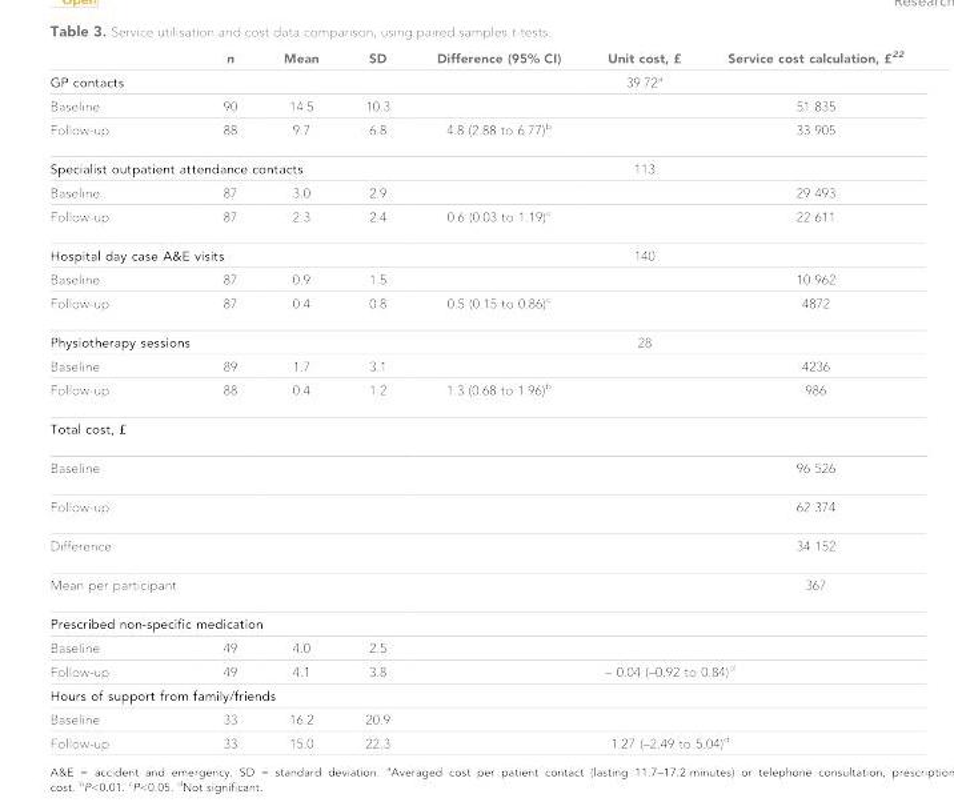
<table><thead><tr><td></td><td>n</td><td>Mean</td><td>SD</td><td>Difference (95% CI)</td><td>Unit cost, £</td><td>Service cost calculation, £22</td></tr></thead><tbody><tr><td colspan="5">GP contacts</td><td>39.72<sup>a</sup></td><td></td></tr><tr><td>Baseline</td><td>90</td><td>14.5</td><td>10.3</td><td></td><td></td><td>51 835</td></tr><tr><td>Follow-up</td><td>88</td><td>9.7</td><td>6.8</td><td>4.8 (2.88 to 6.77)<sup>b</sup></td><td></td><td>33 905</td></tr><tr><td colspan="5">Specialist outpatient attendance contacts</td><td>113</td><td></td></tr><tr><td>Baseline</td><td>87</td><td>3.0</td><td>2.9</td><td></td><td></td><td>29 493</td></tr><tr><td>Follow-up</td><td>87</td><td>2.3</td><td>2.4</td><td>0.6 (0.03 to 1.19)<sup>c</sup></td><td></td><td>22 611</td></tr><tr><td colspan="5">Hospital day case A&amp;E visits</td><td>140</td><td></td></tr><tr><td>Baseline</td><td>87</td><td>0.9</td><td>1.5</td><td></td><td></td><td>10 962</td></tr><tr><td>Follow-up</td><td>87</td><td>0.4</td><td>0.8</td><td>0.5 (0.15 to 0.86)<sup>c</sup></td><td></td><td>4872</td></tr><tr><td colspan="5">Physiotherapy sessions</td><td>28</td><td></td></tr><tr><td>Baseline</td><td>89</td><td>1.7</td><td>3.1</td><td></td><td></td><td>4236</td></tr><tr><td>Follow-up</td><td>88</td><td>0.4</td><td>1.2</td><td>1.3 (0.68 to 1.96)<sup>b</sup></td><td></td><td>986</td></tr><tr><td colspan="7">Total cost, £</td></tr><tr><td>Baseline</td><td></td><td></td><td></td><td></td><td></td><td>96 526</td></tr><tr><td>Follow-up</td><td></td><td></td><td></td><td></td><td></td><td>62 374</td></tr><tr><td>Difference</td><td></td><td></td><td></td><td></td><td></td><td>34 152</td></tr><tr><td>Mean per participant</td><td></td><td></td><td></td><td></td><td></td><td>367</td></tr><tr><td colspan="7">Prescribed non-specific medication</td></tr><tr><td>Baseline</td><td>49</td><td>4.0</td><td>2.5</td><td colspan="3"></td></tr><tr><td>Follow-up</td><td>49</td><td>4.1</td><td>3.8</td><td colspan="3">– 0.04 (–0.92 to 0.84)<sup>d</sup></td></tr><tr><td colspan="7">Hours of support from family/friends</td></tr><tr><td>Baseline</td><td>33</td><td>16.2</td><td>20.9</td><td colspan="3"></td></tr><tr><td>Follow-up</td><td>33</td><td>15.0</td><td>22.3</td><td colspan="3">1.27 (–2.49 to 5.04)<sup>d</sup></td></tr></tbody></table>